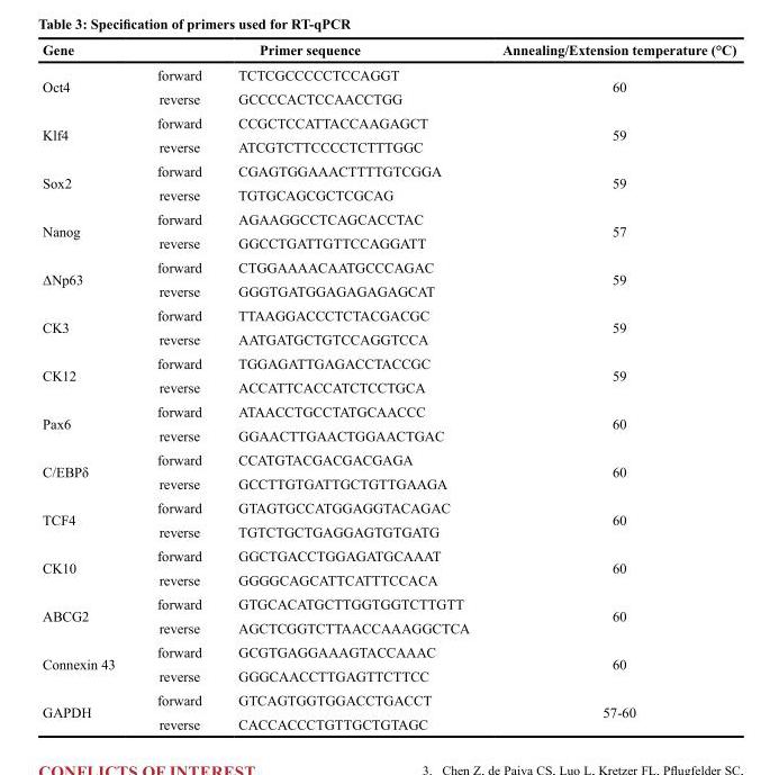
<table><thead><tr><td>Gene</td><td></td><td>Primer sequence</td><td>Annealing/Extension temperature (°C)</td></tr></thead><tbody><tr><td rowspan="2">Oct4</td><td>forward</td><td>TCTCGCCCCCTCCAGGT</td><td rowspan="2">60</td></tr><tr><td>reverse</td><td>GCCCCACTCCAACCTGG</td></tr><tr><td rowspan="2">Klf4</td><td>forward</td><td>CCGCTCCATTACCAAGAGCT</td><td rowspan="2">59</td></tr><tr><td>reverse</td><td>ATCGTCTTCCCCTCTTTGGC</td></tr><tr><td rowspan="2">Sox2</td><td>forward</td><td>CGAGTGGAAACTTTTGTCGGA</td><td rowspan="2">59</td></tr><tr><td>reverse</td><td>TGTGCAGCGCTCGCAG</td></tr><tr><td rowspan="2">Nanog</td><td>forward</td><td>AGAAGGCCTCAGCACCTAC</td><td rowspan="2">57</td></tr><tr><td>reverse</td><td>GGCCTGATTGTTCCAGGATT</td></tr><tr><td rowspan="2">ΔNp63</td><td>forward</td><td>CTGGAAAACAATGCCCAGAC</td><td rowspan="2">59</td></tr><tr><td>reverse</td><td>GGGTGATGGAGAGAGAGCAT</td></tr><tr><td rowspan="2">CK3</td><td>forward</td><td>TTAAGGACCCTCTACGACGC</td><td rowspan="2">59</td></tr><tr><td>reverse</td><td>AATGATGCTGTCCAGGTCCA</td></tr><tr><td rowspan="2">CK12</td><td>forward</td><td>TGGAGATTGAGACCTACCGC</td><td rowspan="2">59</td></tr><tr><td>reverse</td><td>ACCATTCACCATCTCCTGCA</td></tr><tr><td rowspan="2">Pax6</td><td>forward</td><td>ATAACCTGCCTATGCAACCC</td><td rowspan="2">60</td></tr><tr><td>reverse</td><td>GGAACTTGAACTGGAACTGAC</td></tr><tr><td rowspan="2">C/EBPδ</td><td>forward</td><td>CCATGTACGACGACGAGA</td><td rowspan="2">60</td></tr><tr><td>reverse</td><td>GCCTTGTGATTGCTGTTGAAGA</td></tr><tr><td rowspan="2">TCF4</td><td>forward</td><td>GTAGTGCCATGGAGGTACAGAC</td><td rowspan="2">60</td></tr><tr><td>reverse</td><td>TGTCTGCTGAGGAGTGTGATG</td></tr><tr><td rowspan="2">CK10</td><td>forward</td><td>GGCTGACCTGGAGATGCAAAT</td><td rowspan="2">60</td></tr><tr><td>reverse</td><td>GGGGCAGCATTCATTTCCACA</td></tr><tr><td rowspan="2">ABCG2</td><td>forward</td><td>GTGCACATGCTTGGTGGTCTTGTT</td><td rowspan="2">60</td></tr><tr><td>reverse</td><td>AGCTCGGTCTTAACCAAAGGCTCA</td></tr><tr><td rowspan="2">Connexin 43</td><td>forward</td><td>GCGTGAGGAAAGTACCAAAC</td><td rowspan="2">60</td></tr><tr><td>reverse</td><td>GGGCAACCTTGAGTTCTTCC</td></tr><tr><td rowspan="2">GAPDH</td><td>forward</td><td>GTCAGTGGTGGACCTGACCT</td><td rowspan="2">57-60</td></tr><tr><td>reverse</td><td>CACCACCCTGTTGCTGTAGC</td></tr></tbody></table>